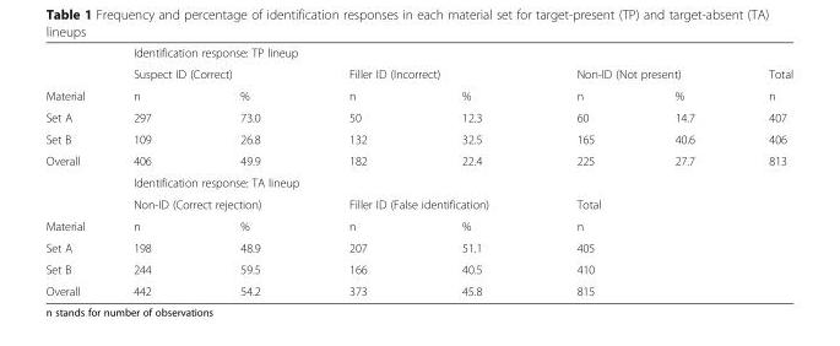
<table><thead><tr><td rowspan="3">Material</td><td colspan="7">Identification response: TP lineup</td></tr><tr><td colspan="2">Suspect ID (Correct)</td><td colspan="2">Filler ID (Incorrect)</td><td colspan="2">Non-ID (Not present)</td><td rowspan="2">Total n</td></tr><tr><td>n</td><td>%</td><td>n</td><td>%</td><td>n</td><td>%</td></tr></thead><tbody><tr><td>Set A</td><td>297</td><td>73.0</td><td>50</td><td>12.3</td><td>60</td><td>14.7</td><td>407</td></tr><tr><td>Set B</td><td>109</td><td>26.8</td><td>132</td><td>32.5</td><td>165</td><td>40.6</td><td>406</td></tr><tr><td rowspan="3">Overall</td><td>406</td><td>49.9</td><td>182</td><td>22.4</td><td>225</td><td>27.7</td><td>813</td></tr><tr><td colspan="7">Identification response: TA lineup</td></tr><tr><td colspan="2">Non-ID (Correct rejection)</td><td colspan="2">Filler ID (False identification)</td><td>Total</td><td></td><td></td></tr><tr><td>Material</td><td>n</td><td>%</td><td>n</td><td>%</td><td>n</td><td></td><td></td></tr><tr><td>Set A</td><td>198</td><td>48.9</td><td>207</td><td>51.1</td><td>405</td><td></td><td></td></tr><tr><td>Set B</td><td>244</td><td>59.5</td><td>166</td><td>40.5</td><td>410</td><td></td><td></td></tr><tr><td>Overall</td><td>442</td><td>54.2</td><td>373</td><td>45.8</td><td>815</td><td></td><td></td></tr></tbody></table>